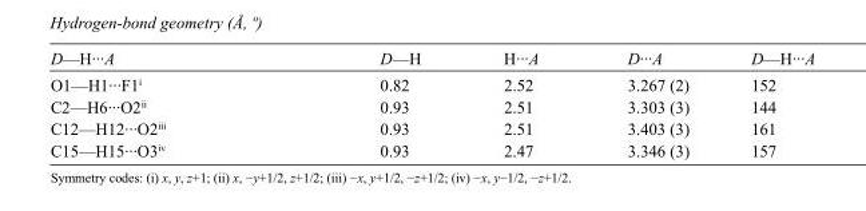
<table><tbody><tr><td>D—H···A</td><td>D—H</td><td>H···A</td><td>D···A</td><td>D—H···A</td></tr><tr><td>O1—H1···F1<sup>i</sup></td><td>0.82</td><td>2.52</td><td>3.267 (2)</td><td>152</td></tr><tr><td>C2—H6···O2<sup>ii</sup></td><td>0.93</td><td>2.51</td><td>3.303 (3)</td><td>144</td></tr><tr><td>C12—H12···O2<sup>iii</sup></td><td>0.93</td><td>2.51</td><td>3.403 (3)</td><td>161</td></tr><tr><td>C15—H15···O3<sup>iv</sup></td><td>0.93</td><td>2.47</td><td>3.346 (3)</td><td>157</td></tr></tbody></table>